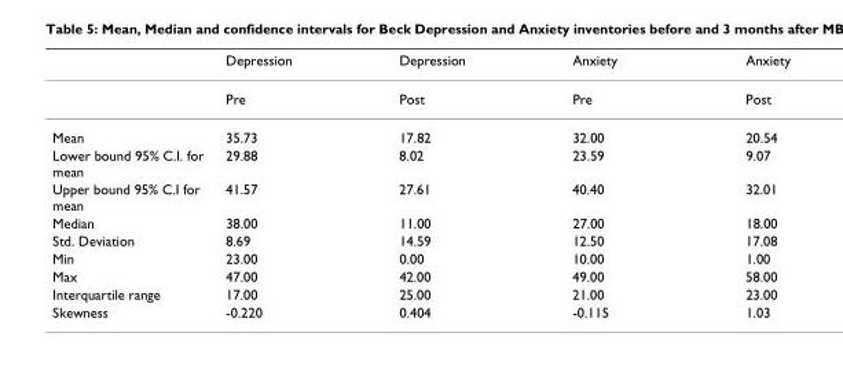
<table><thead><tr><td></td><td>Depression</td><td>Depression</td><td>Anxiety</td><td>Anxiety</td></tr></thead><tbody><tr><td></td><td>Pre</td><td>Post</td><td>Pre</td><td>Post</td></tr><tr><td>Mean</td><td>35.73</td><td>17.82</td><td>32.00</td><td>20.54</td></tr><tr><td>Lower bound 95% C.I. for mean</td><td>29.88</td><td>8.02</td><td>23.59</td><td>9.07</td></tr><tr><td>Upper bound 95% C.I for mean</td><td>41.57</td><td>27.61</td><td>40.40</td><td>32.01</td></tr><tr><td>Median</td><td>38.00</td><td>11.00</td><td>27.00</td><td>18.00</td></tr><tr><td>Std. Deviation</td><td>8.69</td><td>14.59</td><td>12.50</td><td>17.08</td></tr><tr><td>Min</td><td>23.00</td><td>0.00</td><td>10.00</td><td>1.00</td></tr><tr><td>Max</td><td>47.00</td><td>42.00</td><td>49.00</td><td>58.00</td></tr><tr><td>Interquartile range</td><td>17.00</td><td>25.00</td><td>21.00</td><td>23.00</td></tr><tr><td>Skewness</td><td>-0.220</td><td>0.404</td><td>-0.115</td><td>1.03</td></tr></tbody></table>